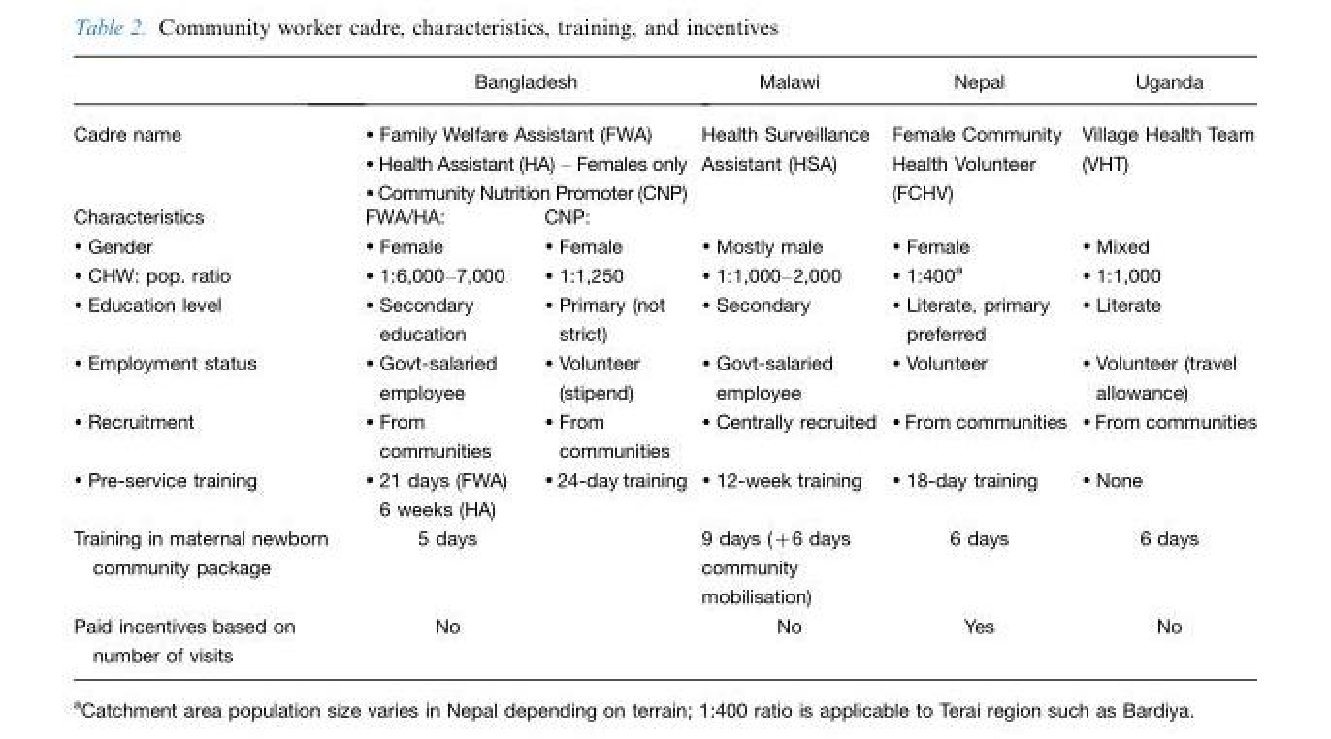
<table><thead><tr><td rowspan="3">Cadre name Characteristics</td><td rowspan="2" colspan="2">Bangladesh • Family Welfare Assistant (FWA) • Health Assistant (HA) – Females only • Community Nutrition Promoter (CNP)</td><td rowspan="3">Malawi Health Surveillance Assistant (HSA)</td><td rowspan="3">Nepal Female Community Health Volunteer (FCHV)</td><td rowspan="3">Uganda Village Health Team (VHT)</td></tr><tr></tr><tr><td>FWA/HA:</td><td>CNP:</td></tr></thead><tbody><tr><td>• Gender</td><td>• Female</td><td>• Female</td><td>• Mostly male</td><td>• Female</td><td>• Mixed</td></tr><tr><td>• CHW: pop. ratio</td><td>• 1:6,000–7,000</td><td>• 1:1,250</td><td>• 1:1,000–2,000</td><td>• 1:400a</td><td>• 1:1,000</td></tr><tr><td>• Education level</td><td>• Secondary education</td><td>• Primary (not strict)</td><td>• Secondary</td><td>• Literate, primary preferred</td><td>• Literate</td></tr><tr><td>• Employment status</td><td>• Govt-salaried employee</td><td>• Volunteer (stipend)</td><td>• Govt-salaried employee</td><td>• Volunteer</td><td>• Volunteer (travel allowance)</td></tr><tr><td>• Recruitment</td><td>• From communities</td><td>• From communities</td><td>• Centrally recruited</td><td>• From communities</td><td>• From communities</td></tr><tr><td>• Pre-service training</td><td>• 21 days (FWA) 6 weeks (HA)</td><td>• 24-day training</td><td>• 12-week training</td><td>• 18-day training</td><td>• None</td></tr><tr><td>Training in maternal newborn community package</td><td>5 days</td><td></td><td>9 days (+6 days community mobilisation)</td><td>6 days</td><td>6 days</td></tr><tr><td>Paid incentives based on number of visits</td><td>No</td><td></td><td>No</td><td>Yes</td><td>No</td></tr></tbody></table>